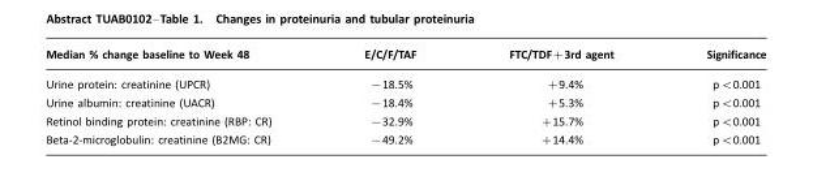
<table><thead><tr><td>Median % change baseline to Week 48</td><td>E/C/F/TAF</td><td>FTC/TDF+3rd agent</td><td>Significance</td></tr></thead><tbody><tr><td>Urine protein: creatinine (UPCR)</td><td>−18.5%</td><td>+9.4%</td><td>p&lt;0.001</td></tr><tr><td>Urine albumin: creatinine (UACR)</td><td>−18.4%</td><td>+5.3%</td><td>p&lt;0.001</td></tr><tr><td>Retinol binding protein: creatinine (RBP: CR)</td><td>−32.9%</td><td>+15.7%</td><td>p&lt;0.001</td></tr><tr><td>Beta-2-microglobulin: creatinine (B2MG: CR)</td><td>−49.2%</td><td>+14.4%</td><td>p&lt;0.001</td></tr></tbody></table>